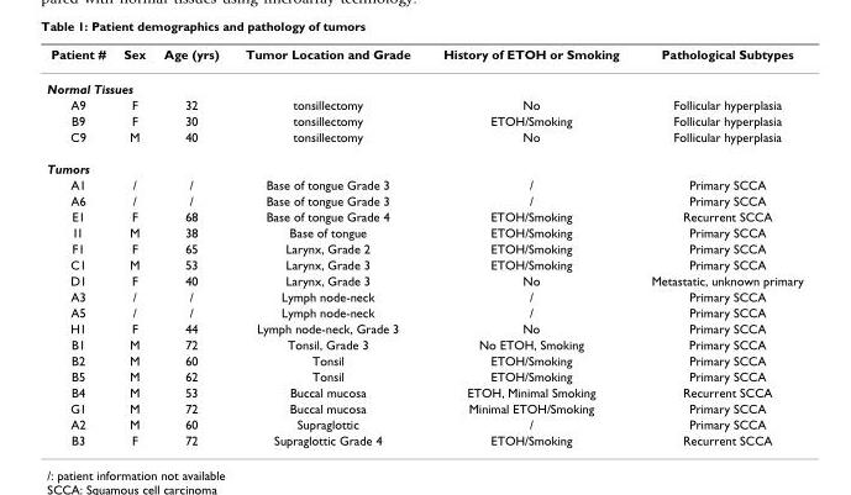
<table><thead><tr><td>Patient #</td><td>Sex</td><td>Age (yrs)</td><td>Tumor Location and Grade</td><td>History of ETOH or Smoking</td><td>Pathological Subtypes</td></tr></thead><tbody><tr><td colspan="6">Normal Tissues</td></tr><tr><td>A9</td><td>F</td><td>32</td><td>tonsillectomy</td><td>No</td><td>Follicular hyperplasia</td></tr><tr><td>B9</td><td>F</td><td>30</td><td>tonsillectomy</td><td>ETOH/Smoking</td><td>Follicular hyperplasia</td></tr><tr><td>C9</td><td>M</td><td>40</td><td>tonsillectomy</td><td>No</td><td>Follicular hyperplasia</td></tr><tr><td colspan="6">Tumors</td></tr><tr><td>A1</td><td>/</td><td>/</td><td>Base of tongue Grade 3</td><td>/</td><td>Primary SCCA</td></tr><tr><td>A6</td><td>/</td><td>/</td><td>Base of tongue Grade 3</td><td>/</td><td>Primary SCCA</td></tr><tr><td>E1</td><td>F</td><td>68</td><td>Base of tongue Grade 4</td><td>ETOH/Smoking</td><td>Recurrent SCCA</td></tr><tr><td>I1</td><td>M</td><td>38</td><td>Base of tongue</td><td>ETOH/Smoking</td><td>Primary SCCA</td></tr><tr><td>F1</td><td>F</td><td>65</td><td>Larynx, Grade 2</td><td>ETOH/Smoking</td><td>Primary SCCA</td></tr><tr><td>C1</td><td>M</td><td>53</td><td>Larynx, Grade 3</td><td>ETOH/Smoking</td><td>Primary SCCA</td></tr><tr><td>D1</td><td>F</td><td>40</td><td>Larynx, Grade 3</td><td>No</td><td>Metastatic, unknown primary</td></tr><tr><td>A3</td><td>/</td><td>/</td><td>Lymph node-neck</td><td>/</td><td>Primary SCCA</td></tr><tr><td>A5</td><td>/</td><td>/</td><td>Lymph node-neck</td><td>/</td><td>Primary SCCA</td></tr><tr><td>H1</td><td>F</td><td>44</td><td>Lymph node-neck, Grade 3</td><td>No</td><td>Primary SCCA</td></tr><tr><td>B1</td><td>M</td><td>72</td><td>Tonsil, Grade 3</td><td>No ETOH, Smoking</td><td>Primary SCCA</td></tr><tr><td>B2</td><td>M</td><td>60</td><td>Tonsil</td><td>ETOH/Smoking</td><td>Primary SCCA</td></tr><tr><td>B5</td><td>M</td><td>62</td><td>Tonsil</td><td>ETOH/Smoking</td><td>Primary SCCA</td></tr><tr><td>B4</td><td>M</td><td>53</td><td>Buccal mucosa</td><td>ETOH, Minimal Smoking</td><td>Recurrent SCCA</td></tr><tr><td>G1</td><td>M</td><td>72</td><td>Buccal mucosa</td><td>Minimal ETOH/Smoking</td><td>Primary SCCA</td></tr><tr><td>A2</td><td>M</td><td>60</td><td>Supraglottic</td><td>/</td><td>Primary SCCA</td></tr><tr><td>B3</td><td>F</td><td>72</td><td>Supraglottic Grade 4</td><td>ETOH/Smoking</td><td>Recurrent SCCA</td></tr></tbody></table>